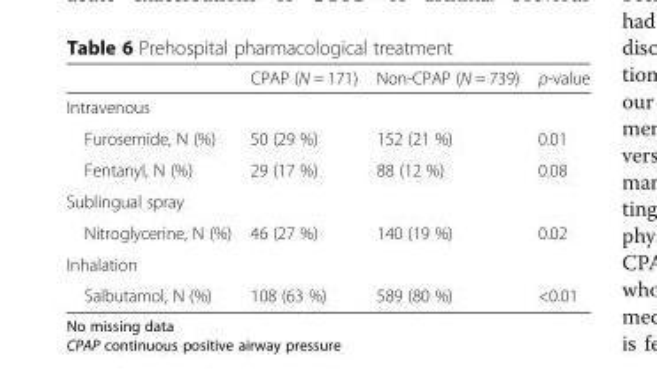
<table><thead><tr><td></td><td>CPAP (N = 171)</td><td>Non-CPAP (N = 739)</td><td>ρ-value</td></tr></thead><tbody><tr><td colspan="4">Intravenous</td></tr><tr><td>Furosemide, N (%)</td><td>50 (29 %)</td><td>152 (21 %)</td><td>0.01</td></tr><tr><td>Fentanyl, N (%)</td><td>29 (17 %)</td><td>88 (12 %)</td><td>0.08</td></tr><tr><td colspan="4">Sublingual spray</td></tr><tr><td>Nitroglycerine, N (%)</td><td>46 (27 %)</td><td>140 (19 %)</td><td>0.02</td></tr><tr><td colspan="4">Inhalation</td></tr><tr><td>Salbutamol, N (%)</td><td>108 (63 %)</td><td>589 (80 %)</td><td>&lt;0.01</td></tr></tbody></table>